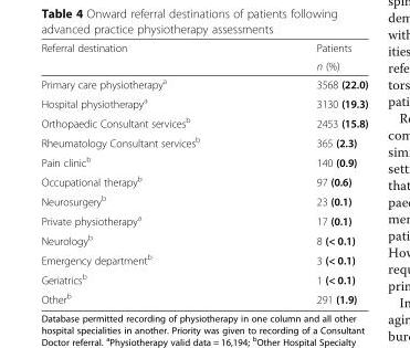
<table><thead><tr><td rowspan="2">Referral destination</td><td rowspan="2">Patients n (%)</td></tr><tr></tr></thead><tbody><tr><td>Primary care physiotherapy<sup>a</sup></td><td>3568 (22.0)</td></tr><tr><td>Hospital physiotherapy<sup>a</sup></td><td>3130 (19.3)</td></tr><tr><td>Orthopaedic Consultant services<sup>b</sup></td><td>2453 (15.8)</td></tr><tr><td>Rheumatology Consultant services<sup>b</sup></td><td>365 (2.3)</td></tr><tr><td>Pain clinic<sup>b</sup></td><td>140 (0.9)</td></tr><tr><td>Occupational therapy<sup>b</sup></td><td>97 (0.6)</td></tr><tr><td>Neurosurgery<sup>b</sup></td><td>23 (0.1)</td></tr><tr><td>Private physiotherapy<sup>a</sup></td><td>17 (0.1)</td></tr><tr><td>Neurology<sup>b</sup></td><td>8 (&lt; 0.1)</td></tr><tr><td>Emergency department<sup>b</sup></td><td>3 (&lt; 0.1)</td></tr><tr><td>Geriatrics<sup>b</sup></td><td>1 (&lt; 0.1)</td></tr><tr><td>Other<sup>b</sup></td><td>291 (1.9)</td></tr></tbody></table>